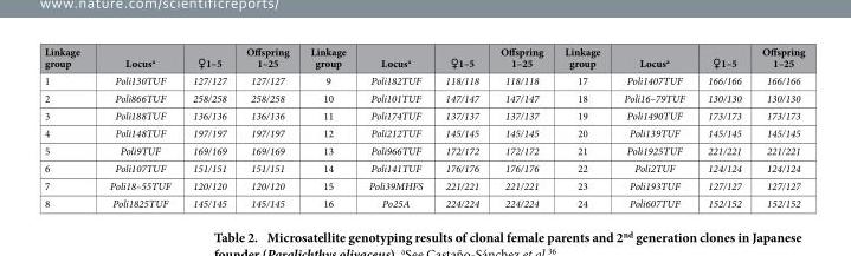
<table><thead><tr><td>Linkage group</td><td>Locus<sup>a</sup></td><td>♀1–5</td><td>Offspring 1–25</td><td>Linkage group</td><td>Locus<sup>a</sup></td><td>♀1–5</td><td>Offspring 1–25</td><td>Linkage group</td><td>Locus<sup>a</sup></td><td>♀1–5</td><td>Offspring 1–25</td></tr></thead><tbody><tr><td>1</td><td>Poli130TUF</td><td>127/127</td><td>127/127</td><td>9</td><td>Poli182TUF</td><td>118/118</td><td>118/118</td><td>17</td><td>Poli1407TUF</td><td>166/166</td><td>166/166</td></tr><tr><td>2</td><td>Poli866TUF</td><td>258/258</td><td>258/258</td><td>10</td><td>Poli101TUF</td><td>147/147</td><td>147/147</td><td>18</td><td>Poli16–79TUF</td><td>130/130</td><td>130/130</td></tr><tr><td>3</td><td>Poli188TUF</td><td>136/136</td><td>136/136</td><td>11</td><td>Poli174TUF</td><td>137/137</td><td>137/137</td><td>19</td><td>Poli1490TUF</td><td>173/173</td><td>173/173</td></tr><tr><td>4</td><td>Poli148TUF</td><td>197/197</td><td>197/197</td><td>12</td><td>Poli212TUF</td><td>145/145</td><td>145/145</td><td>20</td><td>Poli139TUF</td><td>145/145</td><td>145/145</td></tr><tr><td>5</td><td>Poli9TUF</td><td>169/169</td><td>169/169</td><td>13</td><td>Poli966TUF</td><td>172/172</td><td>172/172</td><td>21</td><td>Poli1925TUF</td><td>221/221</td><td>221/221</td></tr><tr><td>6</td><td>Poli107TUF</td><td>151/151</td><td>151/151</td><td>14</td><td>Poli141TUF</td><td>176/176</td><td>176/176</td><td>22</td><td>Poli2TUF</td><td>124/124</td><td>124/124</td></tr><tr><td>7</td><td>Poli18–55TUF</td><td>120/120</td><td>120/120</td><td>15</td><td>Poli39MHFS</td><td>221/221</td><td>221/221</td><td>23</td><td>Poli193TUF</td><td>127/127</td><td>127/127</td></tr><tr><td>8</td><td>Poli1825TUF</td><td>145/145</td><td>145/145</td><td>16</td><td>Po25A</td><td>224/224</td><td>224/224</td><td>24</td><td>Poli607TUF</td><td>152/152</td><td>152/152</td></tr></tbody></table>